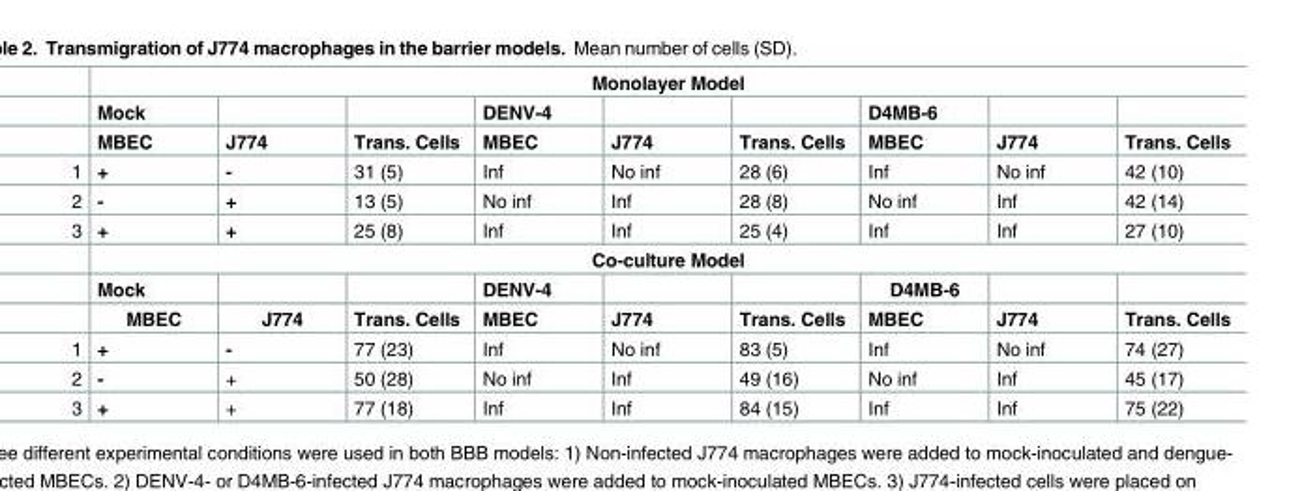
<table><thead><tr><td rowspan="2"></td><td colspan="9">Monolayer Model</td></tr><tr><td>Mock</td><td></td><td></td><td>DENV-4</td><td></td><td></td><td>D4MB-6</td><td></td><td></td></tr></thead><tbody><tr><td></td><td>MBEC</td><td>J774</td><td>Trans. Cells</td><td>MBEC</td><td>J774</td><td>Trans. Cells</td><td>MBEC</td><td>J774</td><td>Trans. Cells</td></tr><tr><td>1</td><td>+</td><td>-</td><td>31 (5)</td><td>Inf</td><td>No inf</td><td>28 (6)</td><td>Inf</td><td>No inf</td><td>42 (10)</td></tr><tr><td>2</td><td>-</td><td>+</td><td>13 (5)</td><td>No inf</td><td>Inf</td><td>28 (8)</td><td>No inf</td><td>Inf</td><td>42 (14)</td></tr><tr><td rowspan="4">3</td><td>+</td><td>+</td><td>25 (8)</td><td>Inf</td><td>Inf</td><td>25 (4)</td><td>Inf</td><td>Inf</td><td>27 (10)</td></tr><tr><td colspan="9">Co-culture Model</td></tr><tr><td>Mock</td><td></td><td></td><td>DENV-4</td><td></td><td></td><td>D4MB-6</td><td></td><td></td></tr><tr><td>MBEC</td><td>J774</td><td>Trans. Cells</td><td>MBEC</td><td>J774</td><td>Trans. Cells</td><td>MBEC</td><td>J774</td><td>Trans. Cells</td></tr><tr><td>1</td><td>+</td><td>-</td><td>77 (23)</td><td>Inf</td><td>No inf</td><td>83 (5)</td><td>Inf</td><td>No inf</td><td>74 (27)</td></tr><tr><td>2</td><td>-</td><td>+</td><td>50 (28)</td><td>No inf</td><td>Inf</td><td>49 (16)</td><td>No inf</td><td>Inf</td><td>45 (17)</td></tr><tr><td>3</td><td>+</td><td>+</td><td>77 (18)</td><td>Inf</td><td>Inf</td><td>84 (15)</td><td>Inf</td><td>Inf</td><td>75 (22)</td></tr></tbody></table>